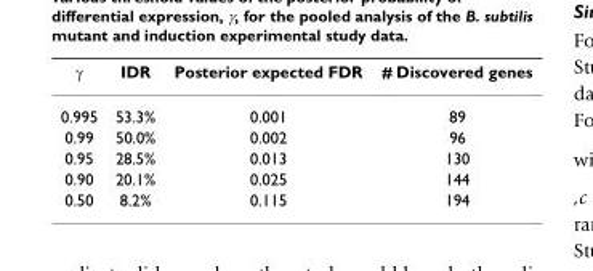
<table><thead><tr><td>γ</td><td>IDR</td><td>Posterior expected FDR</td><td># Discovered genes</td></tr></thead><tbody><tr><td>0.995</td><td>53.3%</td><td>0.001</td><td>89</td></tr><tr><td>0.99</td><td>50.0%</td><td>0.002</td><td>96</td></tr><tr><td>0.95</td><td>28.5%</td><td>0.013</td><td>130</td></tr><tr><td>0.90</td><td>20.1%</td><td>0.025</td><td>144</td></tr><tr><td>0.50</td><td>8.2%</td><td>0.115</td><td>194</td></tr></tbody></table>